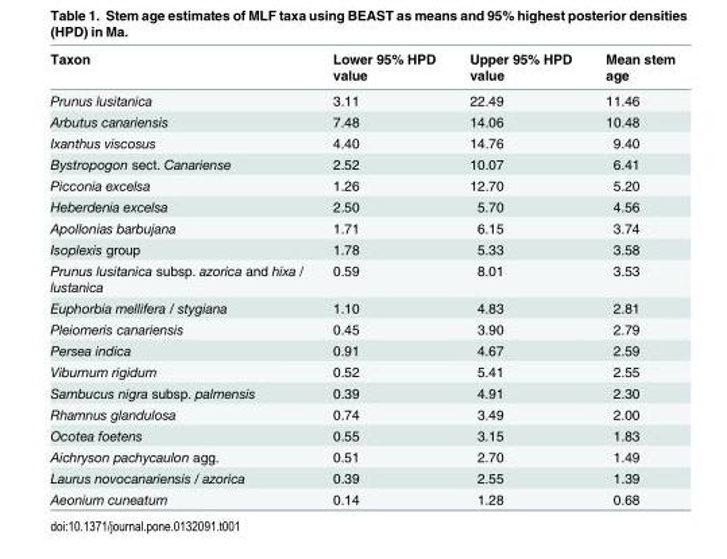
<table><thead><tr><td>Taxon</td><td>Lower 95% HPD value</td><td>Upper 95% HPD value</td><td>Mean stem age</td></tr></thead><tbody><tr><td>Prunus lusitanica</td><td>3.11</td><td>22.49</td><td>11.46</td></tr><tr><td>Arbutus canariensis</td><td>7.48</td><td>14.06</td><td>10.48</td></tr><tr><td>Ixanthus viscosus</td><td>4.40</td><td>14.76</td><td>9.40</td></tr><tr><td>Bystropogon sect. Canariense</td><td>2.52</td><td>10.07</td><td>6.41</td></tr><tr><td>Picconia excelsa</td><td>1.26</td><td>12.70</td><td>5.20</td></tr><tr><td>Heberdenia excelsa</td><td>2.50</td><td>5.70</td><td>4.56</td></tr><tr><td>Apollonias barbujana</td><td>1.71</td><td>6.15</td><td>3.74</td></tr><tr><td>Isoplexis group</td><td>1.78</td><td>5.33</td><td>3.58</td></tr><tr><td>Prunus lusitanica subsp. azorica and hixa / lustanica</td><td>0.59</td><td>8.01</td><td>3.53</td></tr><tr><td>Euphorbia mellifera / stygiana</td><td>1.10</td><td>4.83</td><td>2.81</td></tr><tr><td>Pleiomeris canariensis</td><td>0.45</td><td>3.90</td><td>2.79</td></tr><tr><td>Persea indica</td><td>0.91</td><td>4.67</td><td>2.59</td></tr><tr><td>Viburnum rigidum</td><td>0.52</td><td>5.41</td><td>2.55</td></tr><tr><td>Sambucus nigra subsp. palmensis</td><td>0.39</td><td>4.91</td><td>2.30</td></tr><tr><td>Rhamnus glandulosa</td><td>0.74</td><td>3.49</td><td>2.00</td></tr><tr><td>Ocotea foetens</td><td>0.55</td><td>3.15</td><td>1.83</td></tr><tr><td>Aichryson pachycaulon agg.</td><td>0.51</td><td>2.70</td><td>1.49</td></tr><tr><td>Laurus novocanariensis / azorica</td><td>0.39</td><td>2.55</td><td>1.39</td></tr><tr><td>Aeonium cuneatum</td><td>0.14</td><td>1.28</td><td>0.68</td></tr></tbody></table>